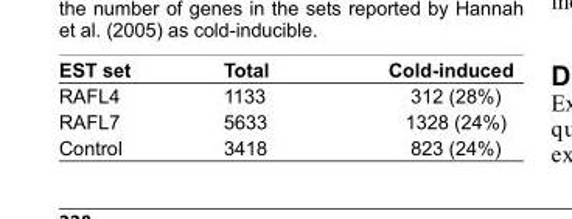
<table><thead><tr><td>EST set</td><td>Total</td><td>Cold-induced</td></tr></thead><tbody><tr><td>RAFL4</td><td>1133</td><td>312 (28%)</td></tr><tr><td>RAFL7</td><td>5633</td><td>1328 (24%)</td></tr><tr><td>Control</td><td>3418</td><td>823 (24%)</td></tr></tbody></table>